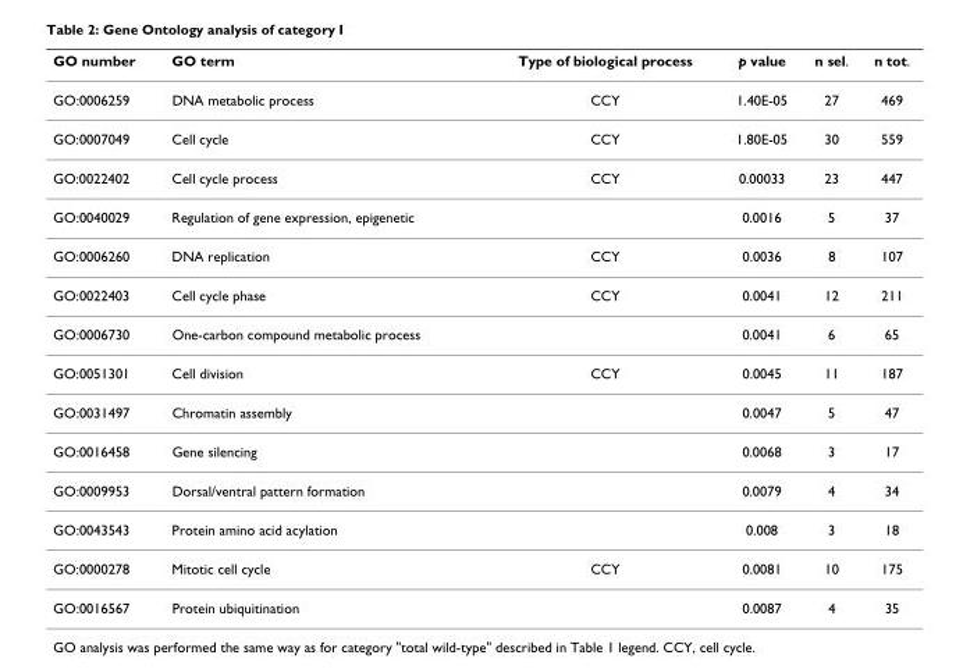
<table><thead><tr><td>GO number</td><td>GO term</td><td>Type of biological process</td><td>p value</td><td>n sel.</td><td>n tot.</td></tr></thead><tbody><tr><td>GO:0006259</td><td>DNA metabolic process</td><td>CCY</td><td>1.40E-05</td><td>27</td><td>469</td></tr><tr><td>GO:0007049</td><td>Cell cycle</td><td>CCY</td><td>1.80E-05</td><td>30</td><td>559</td></tr><tr><td>GO:0022402</td><td>Cell cycle process</td><td>CCY</td><td>0.00033</td><td>23</td><td>447</td></tr><tr><td>GO:0040029</td><td>Regulation of gene expression, epigenetic</td><td></td><td>0.0016</td><td>5</td><td>37</td></tr><tr><td>GO:0006260</td><td>DNA replication</td><td>CCY</td><td>0.0036</td><td>8</td><td>107</td></tr><tr><td>GO:0022403</td><td>Cell cycle phase</td><td>CCY</td><td>0.0041</td><td>12</td><td>211</td></tr><tr><td>GO:0006730</td><td>One-carbon compound metabolic process</td><td></td><td>0.0041</td><td>6</td><td>65</td></tr><tr><td>GO:0051301</td><td>Cell division</td><td>CCY</td><td>0.0045</td><td>11</td><td>187</td></tr><tr><td>GO:0031497</td><td>Chromatin assembly</td><td></td><td>0.0047</td><td>5</td><td>47</td></tr><tr><td>GO:0016458</td><td>Gene silencing</td><td></td><td>0.0068</td><td>3</td><td>17</td></tr><tr><td>GO:0009953</td><td>Dorsal/ventral pattern formation</td><td></td><td>0.0079</td><td>4</td><td>34</td></tr><tr><td>GO:0043543</td><td>Protein amino acid acylation</td><td></td><td>0.008</td><td>3</td><td>18</td></tr><tr><td>GO:0000278</td><td>Mitotic cell cycle</td><td>CCY</td><td>0.0081</td><td>10</td><td>175</td></tr><tr><td>GO:0016567</td><td>Protein ubiquitination</td><td></td><td>0.0087</td><td>4</td><td>35</td></tr></tbody></table>